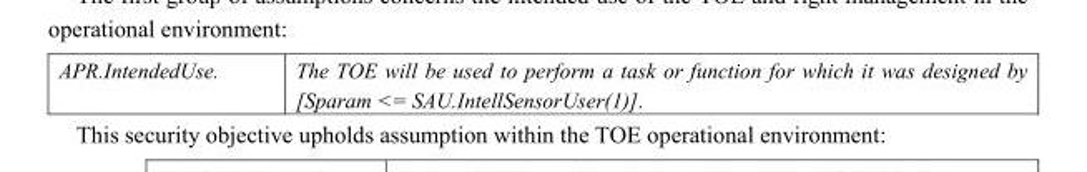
<table><tbody><tr><td>APR.IntendedUse.</td><td>The TOE will be used to perform a task or function for which it was designed by [Sparam &lt;= SAU.IntellSensorUser(1)].</td></tr></tbody></table>